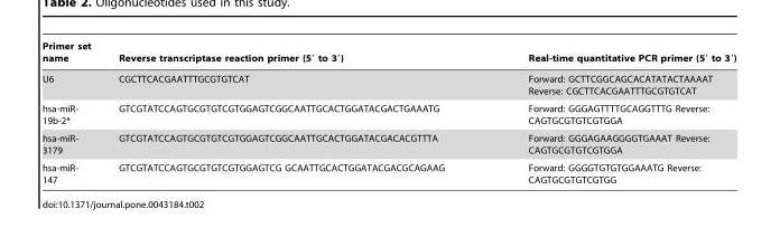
<table><thead><tr><td>Primer set name</td><td>Reverse transcriptase reaction primer (5′ to 3′)</td><td>Real-time quantitative PCR primer (5′ to 3′)</td></tr></thead><tbody><tr><td>U6</td><td>CGCTTCACGAATTTGCGTGTCAT</td><td>Forward: GCTTCGGCAGCACATATACTAAAAT Reverse: CGCTTCACGAATTTGCGTGTCAT</td></tr><tr><td>hsa-miR- 19b-2*</td><td>GTCGTATCCAGTGCGTGTCGTGGAGTCGGCAATTGCACTGGATACGACTGAAATG</td><td>Forward: GGGAGTTTTGCAGGTTTG Reverse: CAGTGCGTGTCGTGGA</td></tr><tr><td>hsa-miR- 3179</td><td>GTCGTATCCAGTGCGTGTCGTGGAGTCGGCAATTGCACTGGATACGACACGTTTA</td><td>Forward: GGGAGAAGGGGTGAAAT Reverse: CAGTGCGTGTCGTGGA</td></tr><tr><td>hsa-miR- 147</td><td>GTCGTATCCAGTGCGTGTCGTGGAGTCG GCAATTGCACTGGATACGACGCAGAAG</td><td>Forward: GGGGTGTGTGGAAATG Reverse: CAGTGCGTGTCGTGG</td></tr></tbody></table>